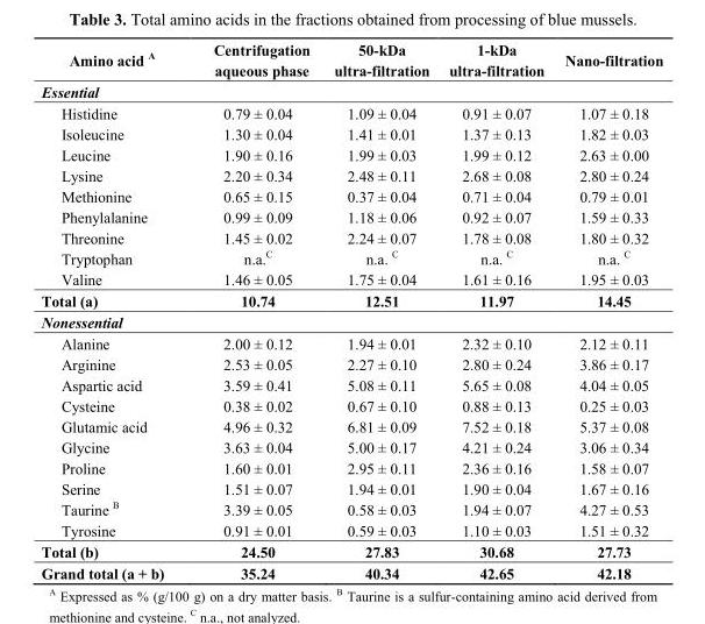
<table><thead><tr><td>Amino acid <sup>A</sup></td><td>Centrifugation aqueous phase</td><td>50-kDa ultra-filtration</td><td>1-kDa ultra-filtration</td><td>Nano-filtration</td></tr></thead><tbody><tr><td colspan="5">Essential</td></tr><tr><td>Histidine</td><td>0.79 ± 0.04</td><td>1.09 ± 0.04</td><td>0.91 ± 0.07</td><td>1.07 ± 0.18</td></tr><tr><td>Isoleucine</td><td>1.30 ± 0.04</td><td>1.41 ± 0.01</td><td>1.37 ± 0.13</td><td>1.82 ± 0.03</td></tr><tr><td>Leucine</td><td>1.90 ± 0.16</td><td>1.99 ± 0.03</td><td>1.99 ± 0.12</td><td>2.63 ± 0.00</td></tr><tr><td>Lysine</td><td>2.20 ± 0.34</td><td>2.48 ± 0.11</td><td>2.68 ± 0.08</td><td>2.80 ± 0.24</td></tr><tr><td>Methionine</td><td>0.65 ± 0.15</td><td>0.37 ± 0.04</td><td>0.71 ± 0.04</td><td>0.79 ± 0.01</td></tr><tr><td>Phenylalanine</td><td>0.99 ± 0.09</td><td>1.18 ± 0.06</td><td>0.92 ± 0.07</td><td>1.59 ± 0.33</td></tr><tr><td>Threonine</td><td>1.45 ± 0.02</td><td>2.24 ± 0.07</td><td>1.78 ± 0.08</td><td>1.80 ± 0.32</td></tr><tr><td>Tryptophan</td><td>n.a.<sup>C</sup></td><td>n.a. <sup>C</sup></td><td>n.a. <sup>C</sup></td><td>n.a. <sup>C</sup></td></tr><tr><td>Valine</td><td>1.46 ± 0.05</td><td>1.75 ± 0.04</td><td>1.61 ± 0.16</td><td>1.95 ± 0.03</td></tr><tr><td>Total (a)</td><td>10.74</td><td>12.51</td><td>11.97</td><td>14.45</td></tr><tr><td colspan="5">Nonessential</td></tr><tr><td>Alanine</td><td>2.00 ± 0.12</td><td>1.94 ± 0.01</td><td>2.32 ± 0.10</td><td>2.12 ± 0.11</td></tr><tr><td>Arginine</td><td>2.53 ± 0.05</td><td>2.27 ± 0.10</td><td>2.80 ± 0.24</td><td>3.86 ± 0.17</td></tr><tr><td>Aspartic acid</td><td>3.59 ± 0.41</td><td>5.08 ± 0.11</td><td>5.65 ± 0.08</td><td>4.04 ± 0.05</td></tr><tr><td>Cysteine</td><td>0.38 ± 0.02</td><td>0.67 ± 0.10</td><td>0.88 ± 0.13</td><td>0.25 ± 0.03</td></tr><tr><td>Glutamic acid</td><td>4.96 ± 0.32</td><td>6.81 ± 0.09</td><td>7.52 ± 0.18</td><td>5.37 ± 0.08</td></tr><tr><td>Glycine</td><td>3.63 ± 0.04</td><td>5.00 ± 0.17</td><td>4.21 ± 0.24</td><td>3.06 ± 0.34</td></tr><tr><td>Proline</td><td>1.60 ± 0.01</td><td>2.95 ± 0.11</td><td>2.36 ± 0.16</td><td>1.58 ± 0.07</td></tr><tr><td>Serine</td><td>1.51 ± 0.07</td><td>1.94 ± 0.01</td><td>1.90 ± 0.04</td><td>1.67 ± 0.16</td></tr><tr><td>Taurine <sup>B</sup></td><td>3.39 ± 0.05</td><td>0.58 ± 0.03</td><td>1.94 ± 0.07</td><td>4.27 ± 0.53</td></tr><tr><td>Tyrosine</td><td>0.91 ± 0.01</td><td>0.59 ± 0.03</td><td>1.10 ± 0.03</td><td>1.51 ± 0.32</td></tr><tr><td>Total (b)</td><td>24.50</td><td>27.83</td><td>30.68</td><td>27.73</td></tr><tr><td>Grand total (a + b)</td><td>35.24</td><td>40.34</td><td>42.65</td><td>42.18</td></tr></tbody></table>